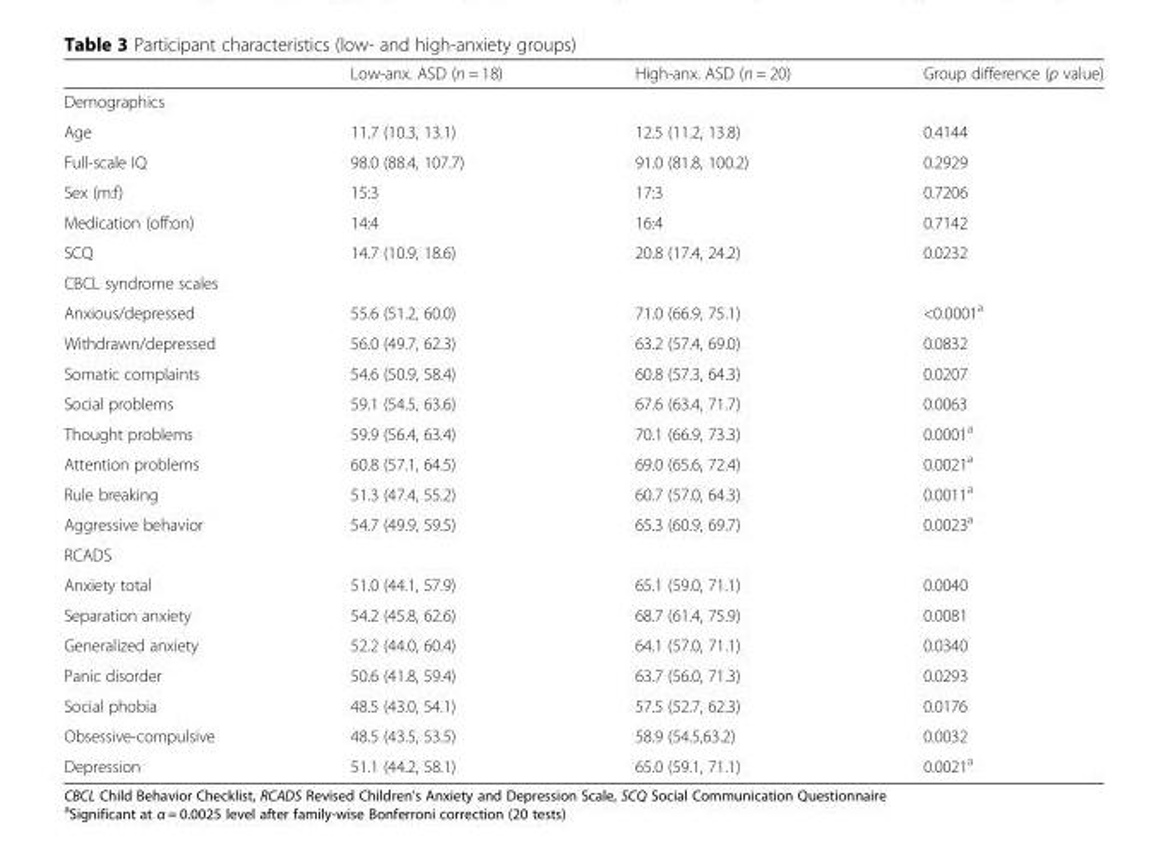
<table><thead><tr><td></td><td>Low-anx. ASD (n = 18)</td><td>High-anx. ASD (n = 20)</td><td>Group difference (p value)</td></tr></thead><tbody><tr><td colspan="4">Demographics</td></tr><tr><td>Age</td><td>11.7 (10.3, 13.1)</td><td>12.5 (11.2, 13.8)</td><td>0.4144</td></tr><tr><td>Full-scale IQ</td><td>98.0 (88.4, 107.7)</td><td>91.0 (81.8, 100.2)</td><td>0.2929</td></tr><tr><td>Sex (m:f)</td><td>15:3</td><td>17:3</td><td>0.7206</td></tr><tr><td>Medication (off:on)</td><td>14:4</td><td>16:4</td><td>0.7142</td></tr><tr><td>SCQ</td><td>14.7 (10.9, 18.6)</td><td>20.8 (17.4, 24.2)</td><td>0.0232</td></tr><tr><td colspan="4">CBCL syndrome scales</td></tr><tr><td>Anxious/depressed</td><td>55.6 (51.2, 60.0)</td><td>71.0 (66.9, 75.1)</td><td>&lt;0.0001<sup>a</sup></td></tr><tr><td>Withdrawn/depressed</td><td>56.0 (49.7, 62.3)</td><td>63.2 (57.4, 69.0)</td><td>0.0832</td></tr><tr><td>Somatic complaints</td><td>54.6 (50.9, 58.4)</td><td>60.8 (57.3, 64.3)</td><td>0.0207</td></tr><tr><td>Social problems</td><td>59.1 (54.5, 63.6)</td><td>67.6 (63.4, 71.7)</td><td>0.0063</td></tr><tr><td>Thought problems</td><td>59.9 (56.4, 63.4)</td><td>70.1 (66.9, 73.3)</td><td>0.0001<sup>a</sup></td></tr><tr><td>Attention problems</td><td>60.8 (57.1, 64.5)</td><td>69.0 (65.6, 72.4)</td><td>0.0021<sup>a</sup></td></tr><tr><td>Rule breaking</td><td>51.3 (47.4, 55.2)</td><td>60.7 (57.0, 64.3)</td><td>0.0011<sup>a</sup></td></tr><tr><td>Aggressive behavior</td><td>54.7 (49.9, 59.5)</td><td>65.3 (60.9, 69.7)</td><td>0.0023<sup>a</sup></td></tr><tr><td colspan="4">RCADS</td></tr><tr><td>Anxiety total</td><td>51.0 (44.1, 57.9)</td><td>65.1 (59.0, 71.1)</td><td>0.0040</td></tr><tr><td>Separation anxiety</td><td>54.2 (45.8, 62.6)</td><td>68.7 (61.4, 75.9)</td><td>0.0081</td></tr><tr><td>Generalized anxiety</td><td>52.2 (44.0, 60.4)</td><td>64.1 (57.0, 71.1)</td><td>0.0340</td></tr><tr><td>Panic disorder</td><td>50.6 (41.8, 59.4)</td><td>63.7 (56.0, 71.3)</td><td>0.0293</td></tr><tr><td>Social phobia</td><td>48.5 (43.0, 54.1)</td><td>57.5 (52.7, 62.3)</td><td>0.0176</td></tr><tr><td>Obsessive-compulsive</td><td>48.5 (43.5, 53.5)</td><td>58.9 (54.5,63.2)</td><td>0.0032</td></tr><tr><td>Depression</td><td>51.1 (44.2, 58.1)</td><td>65.0 (59.1, 71.1)</td><td>0.0021<sup>a</sup></td></tr></tbody></table>